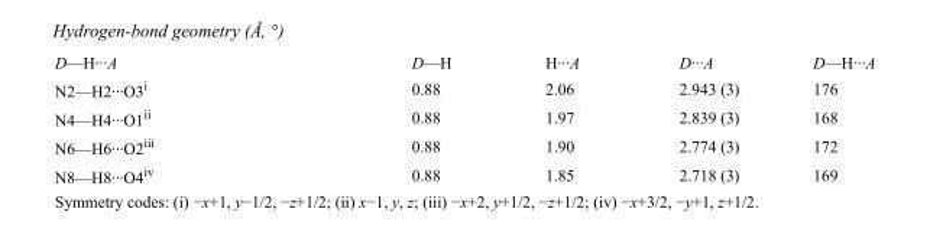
<table><tbody><tr><td>D—H···A</td><td>D—H</td><td>H···A</td><td>D···A</td><td>D—H···A</td></tr><tr><td>N2—H2···O3<sup>i</sup></td><td>0.88</td><td>2.06</td><td>2.943 (3)</td><td>176</td></tr><tr><td>N4—H4···O1<sup>ii</sup></td><td>0.88</td><td>1.97</td><td>2.839 (3)</td><td>168</td></tr><tr><td>N6—H6···O2<sup>iii</sup></td><td>0.88</td><td>1.90</td><td>2.774 (3)</td><td>172</td></tr><tr><td>N8—H8···O4<sup>iv</sup></td><td>0.88</td><td>1.85</td><td>2.718 (3)</td><td>169</td></tr></tbody></table>